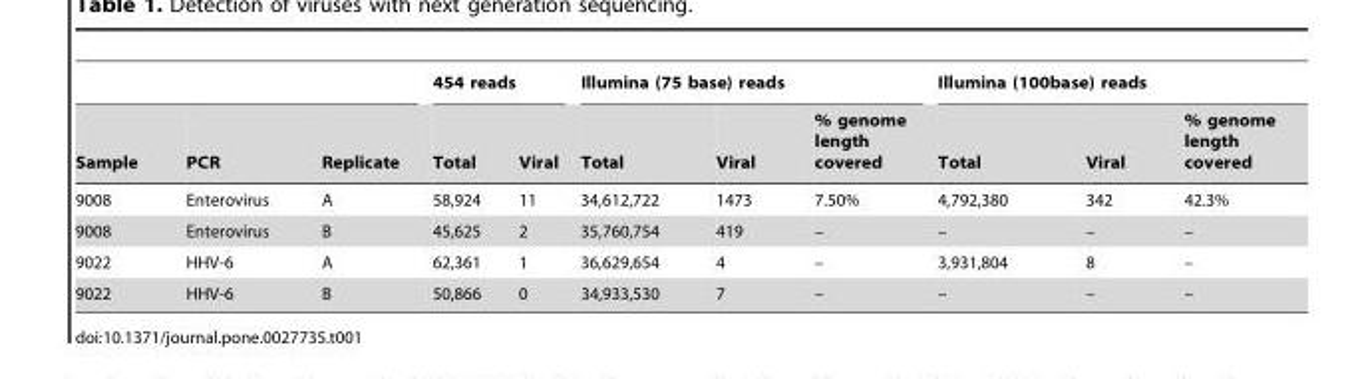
<table><thead><tr><td rowspan="2">Sample</td><td rowspan="2">PCR</td><td rowspan="2">Replicate</td><td colspan="2">454 reads</td><td colspan="3">Illumina (75 base) reads</td><td colspan="3">Illumina (100base) reads</td></tr><tr><td>Total</td><td>Viral</td><td>Total</td><td>Viral</td><td>% genome length covered</td><td>Total</td><td>Viral</td><td>% genome length covered</td></tr></thead><tbody><tr><td>9008</td><td>Enterovirus</td><td>A</td><td>58,924</td><td>11</td><td>34,612,722</td><td>1473</td><td>7.50%</td><td>4,792,380</td><td>342</td><td>42.3%</td></tr><tr><td>9008</td><td>Enterovirus</td><td>B</td><td>45,625</td><td>2</td><td>35,760,754</td><td>419</td><td>–</td><td>–</td><td>–</td><td>–</td></tr><tr><td>9022</td><td>HHV-6</td><td>A</td><td>62,361</td><td>1</td><td>36,629,654</td><td>4</td><td>–</td><td>3,931,804</td><td>8</td><td>–</td></tr><tr><td>9022</td><td>HHV-6</td><td>B</td><td>50,866</td><td>0</td><td>34,933,530</td><td>7</td><td>–</td><td>–</td><td>–</td><td>–</td></tr></tbody></table>